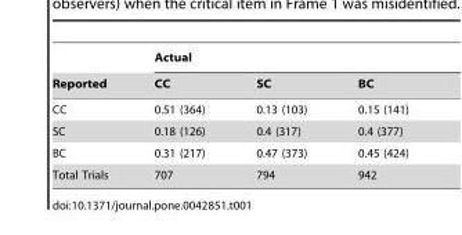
<table><thead><tr><td rowspan="2">Reported</td><td colspan="3">Actual</td></tr><tr><td>CC</td><td>SC</td><td>BC</td></tr></thead><tbody><tr><td>CC</td><td>0.51 (364)</td><td>0.13 (103)</td><td>0.15 (141)</td></tr><tr><td>SC</td><td>0.18 (126)</td><td>0.4 (317)</td><td>0.4 (377)</td></tr><tr><td>BC</td><td>0.31 (217)</td><td>0.47 (373)</td><td>0.45 (424)</td></tr><tr><td>Total Trials</td><td>707</td><td>794</td><td>942</td></tr></tbody></table>